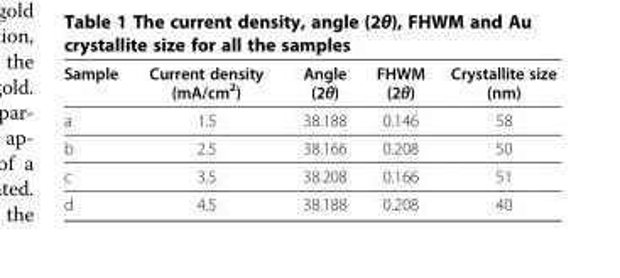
<table><thead><tr><td>Sample</td><td>Current density (mA/cm<sup>2</sup>)</td><td>Angle (2θ)</td><td>FHWM (2θ)</td><td>Crystallite size (nm)</td></tr></thead><tbody><tr><td>a</td><td>1.5</td><td>38.188</td><td>0.146</td><td>58</td></tr><tr><td>b</td><td>2.5</td><td>38.166</td><td>0.208</td><td>50</td></tr><tr><td>c</td><td>3.5</td><td>38.208</td><td>0.166</td><td>51</td></tr><tr><td>d</td><td>4.5</td><td>38.188</td><td>0.208</td><td>40</td></tr></tbody></table>